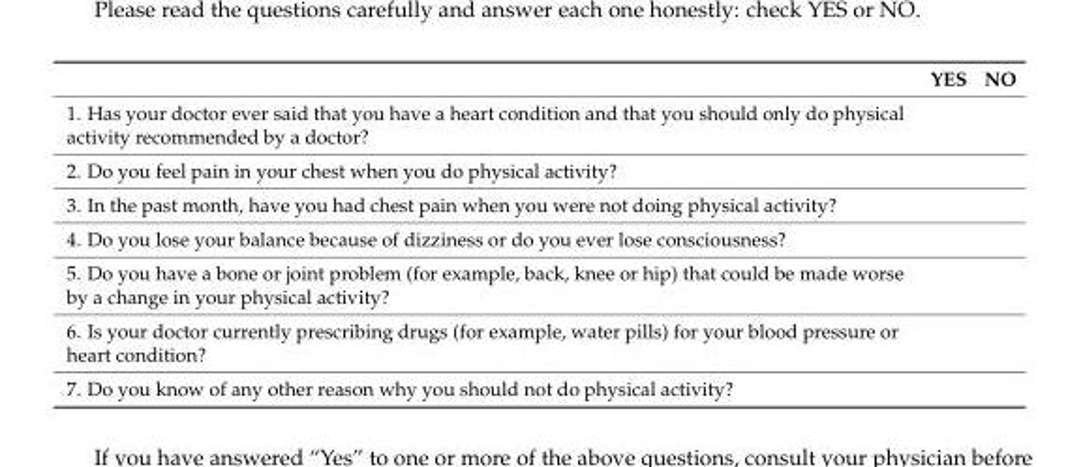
<table><thead><tr><td></td><td>YES</td><td>NO</td></tr></thead><tbody><tr><td colspan="3">1. Has your doctor ever said that you have a heart condition and that you should only do physical activity recommended by a doctor?</td></tr><tr><td colspan="3">2. Do you feel pain in your chest when you do physical activity?</td></tr><tr><td colspan="3">3. In the past month, have you had chest pain when you were not doing physical activity?</td></tr><tr><td colspan="3">4. Do you lose your balance because of dizziness or do you ever lose consciousness?</td></tr><tr><td colspan="3">5. Do you have a bone or joint problem (for example, back, knee or hip) that could be made worse by a change in your physical activity?</td></tr><tr><td colspan="3">6. Is your doctor currently prescribing drugs (for example, water pills) for your blood pressure or heart condition?</td></tr><tr><td>7. Do you know of any other reason why you should not do physical activity?</td><td></td><td></td></tr></tbody></table>